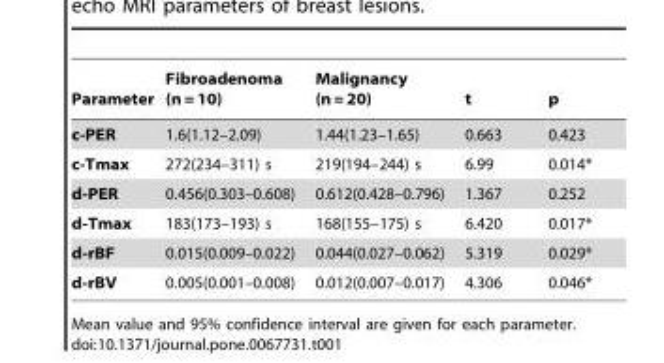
<table><thead><tr><td>Parameter</td><td>Fibroadenoma (n = 10)</td><td>Malignancy (n = 20)</td><td>t</td><td>p</td></tr></thead><tbody><tr><td>c-PER</td><td>1.6(1.12–2.09)</td><td>1.44(1.23–1.65)</td><td>0.663</td><td>0.423</td></tr><tr><td>c-Tmax</td><td>272(234–311) s</td><td>219(194–244) s</td><td>6.99</td><td>0.014*</td></tr><tr><td>d-PER</td><td>0.456(0.303–0.608)</td><td>0.612(0.428–0.796)</td><td>1.367</td><td>0.252</td></tr><tr><td>d-Tmax</td><td>183(173–193) s</td><td>168(155–175) s</td><td>6.420</td><td>0.017*</td></tr><tr><td>d-rBF</td><td>0.015(0.009–0.022)</td><td>0.044(0.027–0.062)</td><td>5.319</td><td>0.029*</td></tr><tr><td>d-rBV</td><td>0.005(0.001–0.008)</td><td>0.012(0.007–0.017)</td><td>4.306</td><td>0.046*</td></tr></tbody></table>